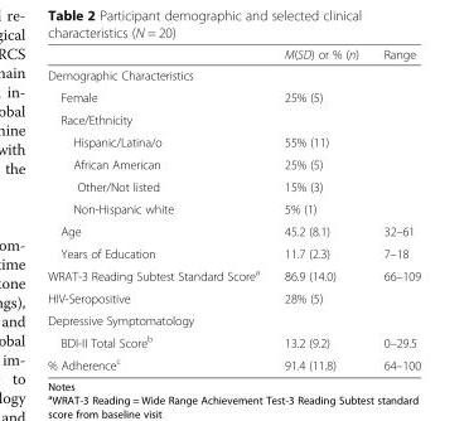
<table><thead><tr><td></td><td>M(SD) or % (n)</td><td>Range</td></tr></thead><tbody><tr><td colspan="3">Demographic Characteristics</td></tr><tr><td>Female</td><td>25% (5)</td><td></td></tr><tr><td colspan="3">Race/Ethnicity</td></tr><tr><td>Hispanic/Latina/o</td><td>55% (11)</td><td></td></tr><tr><td>African American</td><td>25% (5)</td><td></td></tr><tr><td>Other/Not listed</td><td>15% (3)</td><td></td></tr><tr><td>Non-Hispanic white</td><td>5% (1)</td><td></td></tr><tr><td>Age</td><td>45.2 (8.1)</td><td>32–61</td></tr><tr><td>Years of Education</td><td>11.7 (2.3)</td><td>7–18</td></tr><tr><td>WRAT-3 Reading Subtest Standard Score<sup>a</sup></td><td>86.9 (14.0)</td><td>66–109</td></tr><tr><td>HIV-Seropositive</td><td>28% (5)</td><td></td></tr><tr><td colspan="3">Depressive Symptomatology</td></tr><tr><td>BDI-II Total Score<sup>b</sup></td><td>13.2 (9.2)</td><td>0–29.5</td></tr><tr><td>% Adherence<sup>c</sup></td><td>91.4 (11.8)</td><td>64–100</td></tr></tbody></table>